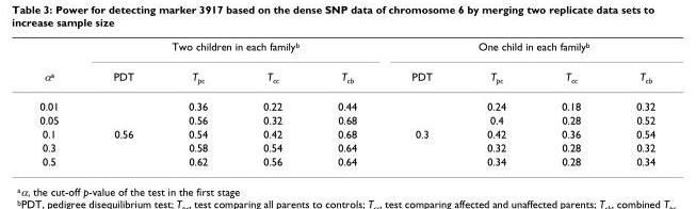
<table><thead><tr><td rowspan="2">α<sup>a</sup></td><td colspan="4">Two children in each family<sup>b</sup></td><td colspan="4">One child in each family<sup>b</sup></td></tr><tr><td>PDT</td><td>T<sub>pc</sub></td><td>T<sub>cc</sub></td><td>T<sub>cb</sub></td><td>PDT</td><td>T<sub>pc</sub></td><td>T<sub>cc</sub></td><td>T<sub>cb</sub></td></tr></thead><tbody><tr><td>0.01</td><td></td><td>0.36</td><td>0.22</td><td>0.44</td><td></td><td>0.24</td><td>0.18</td><td>0.32</td></tr><tr><td>0.05</td><td></td><td>0.56</td><td>0.32</td><td>0.68</td><td></td><td>0.4</td><td>0.28</td><td>0.52</td></tr><tr><td>0.1</td><td>0.56</td><td>0.54</td><td>0.42</td><td>0.68</td><td>0.3</td><td>0.42</td><td>0.36</td><td>0.54</td></tr><tr><td>0.3</td><td></td><td>0.58</td><td>0.54</td><td>0.64</td><td></td><td>0.32</td><td>0.28</td><td>0.32</td></tr><tr><td>0.5</td><td></td><td>0.62</td><td>0.56</td><td>0.64</td><td></td><td>0.34</td><td>0.28</td><td>0.34</td></tr></tbody></table>